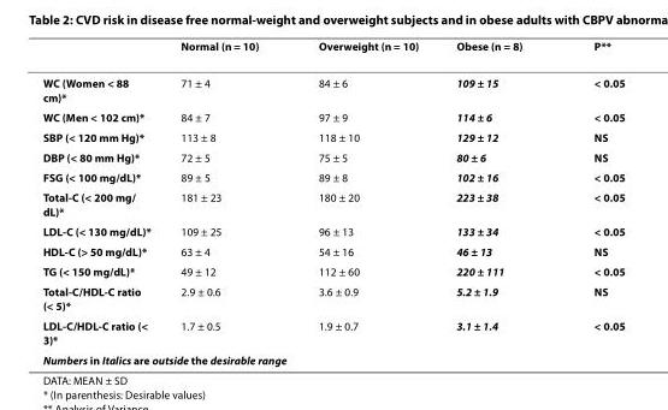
<table><thead><tr><td></td><td>Normal (n = 10)</td><td>Overweight (n = 10)</td><td>Obese (n = 8)</td><td>P**</td></tr></thead><tbody><tr><td>WC (Women &lt; 88 cm)*</td><td>71 ± 4</td><td>84 ± 6</td><td>109 ± 15</td><td>&lt; 0.05</td></tr><tr><td>WC (Men &lt; 102 cm)*</td><td>84 ± 7</td><td>97 ± 9</td><td>114 ± 6</td><td>&lt; 0.05</td></tr><tr><td>SBP (&lt; 120 mm Hg)*</td><td>113 ± 8</td><td>118 ± 10</td><td>129 ± 12</td><td>NS</td></tr><tr><td>DBP (&lt; 80 mm Hg)*</td><td>72 ± 5</td><td>75 ± 5</td><td>80 ± 6</td><td>NS</td></tr><tr><td>FSG (&lt; 100 mg/dL)*</td><td>89 ± 5</td><td>89 ± 8</td><td>102 ± 16</td><td>&lt; 0.05</td></tr><tr><td>Total-C (&lt; 200 mg/ dL)*</td><td>181 ± 23</td><td>180 ± 20</td><td>223 ± 38</td><td>&lt; 0.05</td></tr><tr><td>LDL-C (&lt; 130 mg/dL)*</td><td>109 ± 25</td><td>96 ± 13</td><td>133 ± 34</td><td>&lt; 0.05</td></tr><tr><td>HDL-C (&gt; 50 mg/dL)*</td><td>63 ± 4</td><td>54 ± 16</td><td>46 ± 13</td><td>NS</td></tr><tr><td>TG (&lt; 150 mg/dL)*</td><td>49 ± 12</td><td>112 ± 60</td><td>220 ± 111</td><td>&lt; 0.05</td></tr><tr><td>Total-C/HDL-C ratio (&lt; 5)*</td><td>2.9 ± 0.6</td><td>3.6 ± 0.9</td><td>5.2 ± 1.9</td><td>NS</td></tr><tr><td>LDL-C/HDL-C ratio (&lt; 3)*</td><td>1.7 ± 0.5</td><td>1.9 ± 0.7</td><td>3.1 ± 1.4</td><td>&lt; 0.05</td></tr><tr><td colspan="5">Numbers in Italics are outside the desirable range</td></tr></tbody></table>